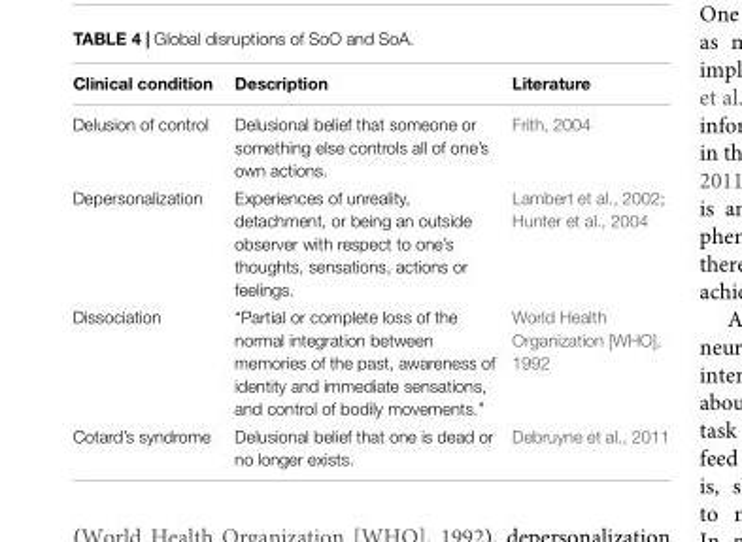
<table><thead><tr><td>Clinical condition</td><td>Description</td><td>Literature</td></tr></thead><tbody><tr><td>Delusion of control</td><td>Delusional belief that someone or something else controls all of one’s own actions.</td><td>Frith, 2004</td></tr><tr><td>Depersonalization</td><td>Experiences of unreality, detachment, or being an outside observer with respect to one’s thoughts, sensations, actions or feelings.</td><td>Lambert et al., 2002; Hunter et al., 2004</td></tr><tr><td>Dissociation</td><td>“Partial or complete loss of the normal integration between memories of the past, awareness of identity and immediate sensations, and control of bodily movements.”</td><td>World Health Organization [WHO], 1992</td></tr><tr><td>Cotard’s syndrome</td><td>Delusional belief that one is dead or no longer exists.</td><td>Debruyne et al., 2011</td></tr></tbody></table>